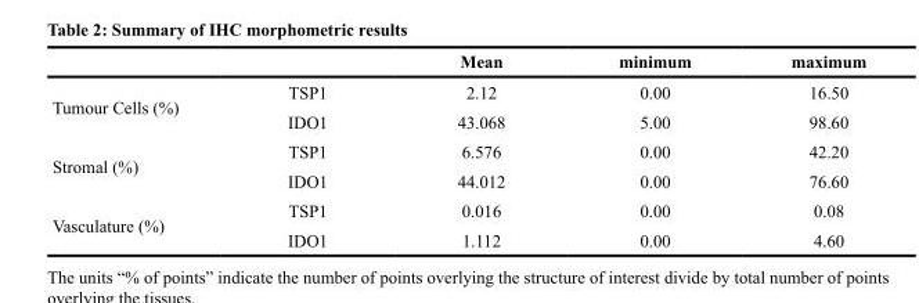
<table><thead><tr><td></td><td></td><td>Mean</td><td>minimum</td><td>maximum</td></tr></thead><tbody><tr><td rowspan="2">Tumour Cells (%)</td><td>TSP1</td><td>2.12</td><td>0.00</td><td>16.50</td></tr><tr><td>IDO1</td><td>43.068</td><td>5.00</td><td>98.60</td></tr><tr><td rowspan="2">Stromal (%)</td><td>TSP1</td><td>6.576</td><td>0.00</td><td>42.20</td></tr><tr><td>IDO1</td><td>44.012</td><td>0.00</td><td>76.60</td></tr><tr><td rowspan="2">Vasculature (%)</td><td>TSP1</td><td>0.016</td><td>0.00</td><td>0.08</td></tr><tr><td>IDO1</td><td>1.112</td><td>0.00</td><td>4.60</td></tr></tbody></table>